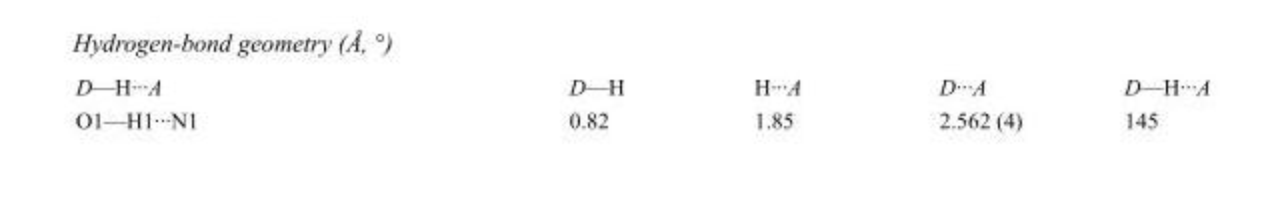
<table><tbody><tr><td>D—H···A</td><td>D—H</td><td>H···A</td><td>D···A</td><td>D—H···A</td></tr><tr><td>O1—H1···N1</td><td>0.82</td><td>1.85</td><td>2.562 (4)</td><td>145</td></tr></tbody></table>